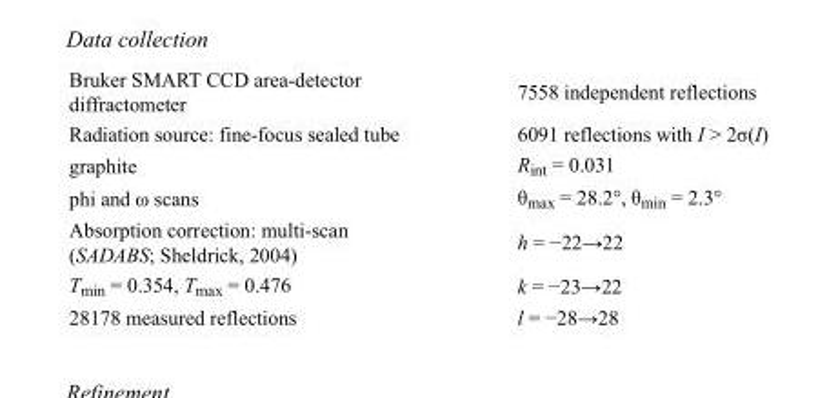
<table><tbody><tr><td>Bruker SMART CCD area-detector diffractometer</td><td>7558 independent reflections</td></tr><tr><td>Radiation source: fine-focus sealed tube</td><td>6091 reflections with I &gt; 2σ(I)</td></tr><tr><td>graphite</td><td>R<sub>int</sub> = 0.031</td></tr><tr><td>phi and ω scans</td><td>θ<sub>max</sub> = 28.2°, θ<sub>min</sub> = 2.3°</td></tr><tr><td>Absorption correction: multi-scan (SADABS; Sheldrick, 2004)</td><td>h = −22→22</td></tr><tr><td>T<sub>min</sub> = 0.354, T<sub>max</sub> = 0.476</td><td>k = −23→22</td></tr><tr><td>28178 measured reflections</td><td>l = −28→28</td></tr></tbody></table>